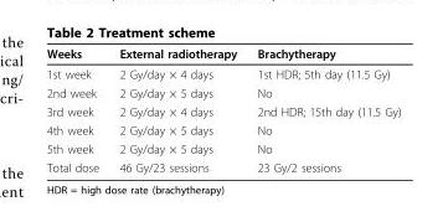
<table><thead><tr><td>Weeks</td><td>External radiotherapy</td><td>Brachytherapy</td></tr></thead><tbody><tr><td>1st week</td><td>2 Gy/day × 4 days</td><td>1st HDR; 5th day (11.5 Gy)</td></tr><tr><td>2nd week</td><td>2 Gy/day × 5 days</td><td>No</td></tr><tr><td>3rd week</td><td>2 Gy/day × 4 days</td><td>2nd HDR; 15th day (11.5 Gy)</td></tr><tr><td>4th week</td><td>2 Gy/day × 5 days</td><td>No</td></tr><tr><td>5th week</td><td>2 Gy/day × 5 days</td><td>No</td></tr><tr><td>Total dose</td><td>46 Gy/23 sessions</td><td>23 Gy/2 sessions</td></tr></tbody></table>